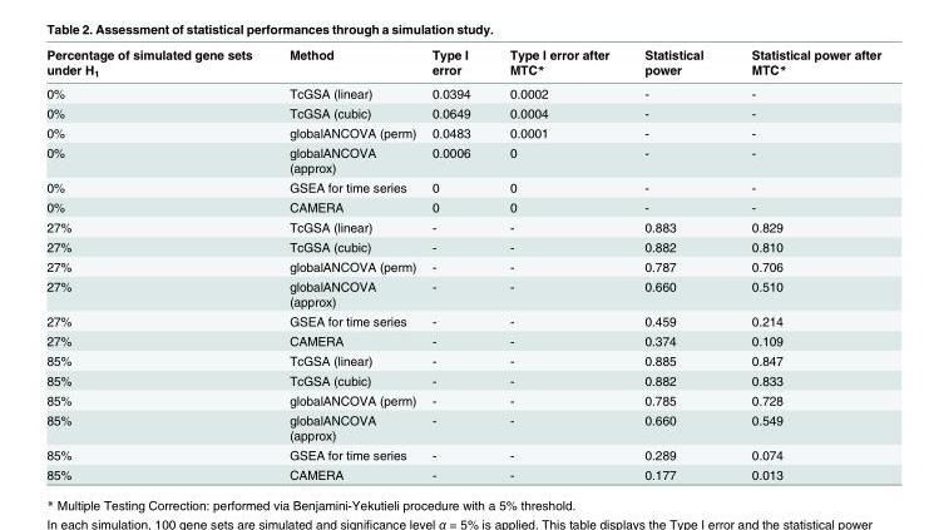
<table><thead><tr><td>Percentage of simulated gene sets under H<sub>1</sub></td><td>Method</td><td>Type I error</td><td>Type I error after MTC*</td><td>Statistical power</td><td>Statistical power after MTC*</td></tr></thead><tbody><tr><td>0%</td><td>TcGSA (linear)</td><td>0.0394</td><td>0.0002</td><td>-</td><td>-</td></tr><tr><td>0%</td><td>TcGSA (cubic)</td><td>0.0649</td><td>0.0004</td><td>-</td><td>-</td></tr><tr><td>0%</td><td>globalANCOVA (perm)</td><td>0.0483</td><td>0.0001</td><td>-</td><td>-</td></tr><tr><td>0%</td><td>globalANCOVA (approx)</td><td>0.0006</td><td>0</td><td>-</td><td>-</td></tr><tr><td>0%</td><td>GSEA for time series</td><td>0</td><td>0</td><td>-</td><td>-</td></tr><tr><td>0%</td><td>CAMERA</td><td>0</td><td>0</td><td>-</td><td>-</td></tr><tr><td>27%</td><td>TcGSA (linear)</td><td>-</td><td>-</td><td>0.883</td><td>0.829</td></tr><tr><td>27%</td><td>TcGSA (cubic)</td><td>-</td><td>-</td><td>0.882</td><td>0.810</td></tr><tr><td>27%</td><td>globalANCOVA (perm)</td><td>-</td><td>-</td><td>0.787</td><td>0.706</td></tr><tr><td>27%</td><td>globalANCOVA (approx)</td><td>-</td><td>-</td><td>0.660</td><td>0.510</td></tr><tr><td>27%</td><td>GSEA for time series</td><td>-</td><td>-</td><td>0.459</td><td>0.214</td></tr><tr><td>27%</td><td>CAMERA</td><td>-</td><td>-</td><td>0.374</td><td>0.109</td></tr><tr><td>85%</td><td>TcGSA (linear)</td><td>-</td><td>-</td><td>0.885</td><td>0.847</td></tr><tr><td>85%</td><td>TcGSA (cubic)</td><td>-</td><td>-</td><td>0.882</td><td>0.833</td></tr><tr><td>85%</td><td>globalANCOVA (perm)</td><td>-</td><td>-</td><td>0.785</td><td>0.728</td></tr><tr><td>85%</td><td>globalANCOVA (approx)</td><td>-</td><td>-</td><td>0.660</td><td>0.549</td></tr><tr><td>85%</td><td>GSEA for time series</td><td>-</td><td>-</td><td>0.289</td><td>0.074</td></tr><tr><td>85%</td><td>CAMERA</td><td>-</td><td>-</td><td>0.177</td><td>0.013</td></tr></tbody></table>